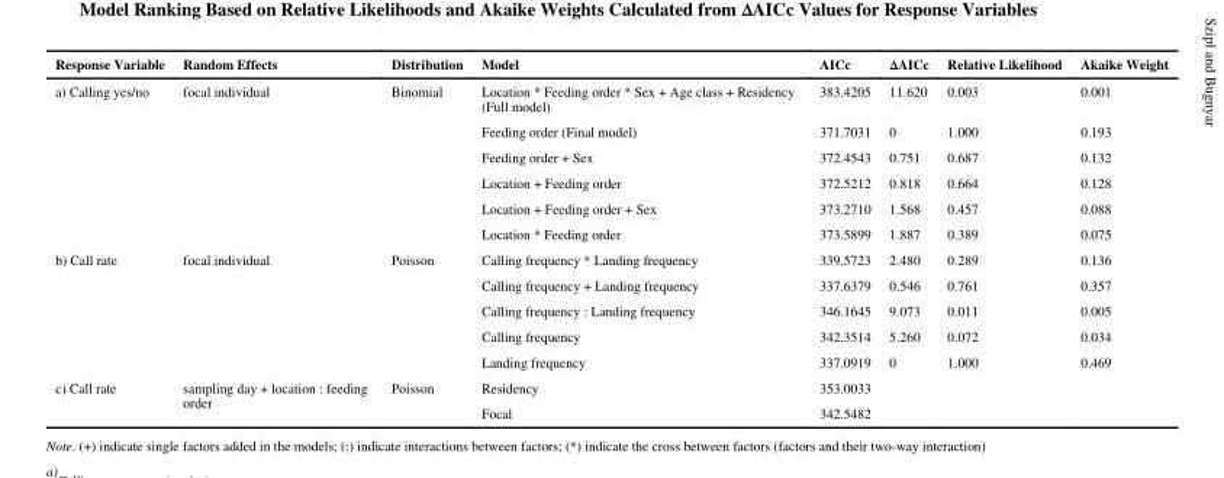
<table><thead><tr><td>Response Variable</td><td>Random Effects</td><td>Distribution</td><td>Model</td><td>AICc</td><td>ΔAICc</td><td>Relative Likelihood</td><td>Akaike Weight</td></tr></thead><tbody><tr><td rowspan="6">a) Calling yes/no</td><td rowspan="6">focal individual</td><td rowspan="6">Binomial</td><td>Location * Feeding order * Sex + Age class + Residency (Full model)</td><td>383.4205</td><td>11.620</td><td>0.003</td><td>0.001</td></tr><tr><td>Feeding order (Final model)</td><td>371.7031</td><td>0</td><td>1.000</td><td>0.193</td></tr><tr><td>Feeding order + Sex</td><td>372.4543</td><td>0.751</td><td>0.687</td><td>0.132</td></tr><tr><td>Location + Feeding order</td><td>372.5212</td><td>0.818</td><td>0.664</td><td>0.128</td></tr><tr><td>Location + Feeding order + Sex</td><td>373.2710</td><td>1.568</td><td>0.457</td><td>0.088</td></tr><tr><td>Location * Feeding order</td><td>373.5899</td><td>1.887</td><td>0.389</td><td>0.075</td></tr><tr><td rowspan="5">b) Call rate</td><td rowspan="5">focal individual</td><td rowspan="5">Poisson</td><td>Calling frequency * Landing frequency</td><td>339.5723</td><td>2.480</td><td>0.289</td><td>0.136</td></tr><tr><td>Calling frequency + Landing frequency</td><td>337.6379</td><td>0.546</td><td>0.761</td><td>0.357</td></tr><tr><td>Calling frequency : Landing frequency</td><td>346.1645</td><td>9.073</td><td>0.011</td><td>0.005</td></tr><tr><td>Calling frequency</td><td>342.3514</td><td>5.260</td><td>0.072</td><td>0.034</td></tr><tr><td>Landing frequency</td><td>337.0919</td><td>0</td><td>1.000</td><td>0.469</td></tr><tr><td rowspan="2">c) Call rate</td><td rowspan="2">sampling day + location : feeding order</td><td rowspan="2">Poisson</td><td>Residency</td><td>353.0033</td><td></td><td></td><td></td></tr><tr><td>Focal</td><td>342.5482</td><td></td><td></td><td></td></tr></tbody></table>